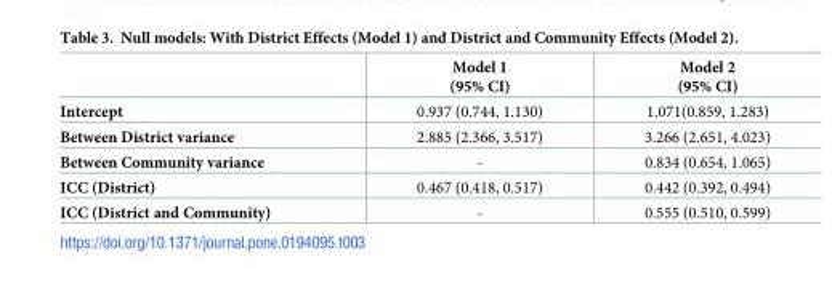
<table><thead><tr><td></td><td>Model 1 (95% CI)</td><td>Model 2 (95% CI)</td></tr></thead><tbody><tr><td>Intercept</td><td>0.937 (0.744, 1.130)</td><td>1.071(0.859, 1.283)</td></tr><tr><td>Between District variance</td><td>2.885 (2.366, 3.517)</td><td>3.266 (2.651, 4.023)</td></tr><tr><td>Between Community variance</td><td>-</td><td>0.834 (0.654, 1.065)</td></tr><tr><td>ICC (District)</td><td>0.467 (0.418, 0.517)</td><td>0.442 (0.392, 0.494)</td></tr><tr><td>ICC (District and Community)</td><td>-</td><td>0.555 (0.510, 0.599)</td></tr></tbody></table>